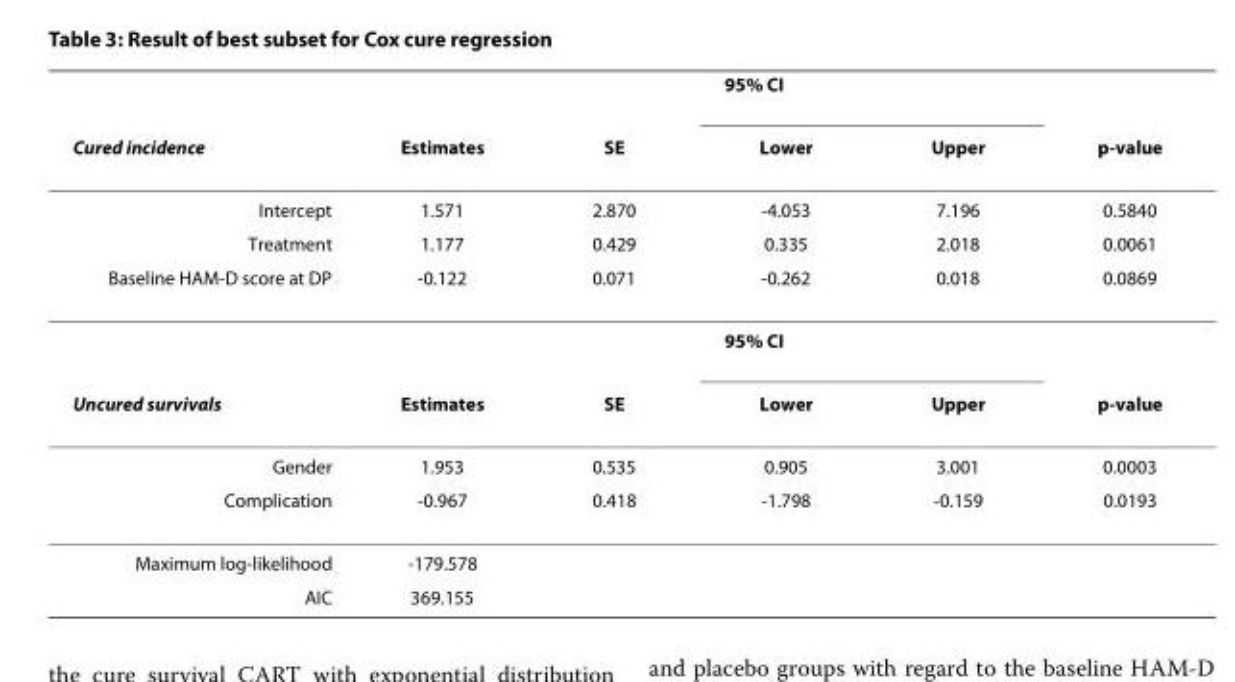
<table><thead><tr><td rowspan="2">Cured incidence</td><td rowspan="2">Estimates</td><td rowspan="2">SE</td><td colspan="2">95% CI</td><td rowspan="2">p-value</td></tr><tr><td>Lower</td><td>Upper</td></tr></thead><tbody><tr><td>Intercept</td><td>1.571</td><td>2.870</td><td>-4.053</td><td>7.196</td><td>0.5840</td></tr><tr><td>Treatment</td><td>1.177</td><td>0.429</td><td>0.335</td><td>2.018</td><td>0.0061</td></tr><tr><td rowspan="2">Baseline HAM-D score at DP</td><td>-0.122</td><td>0.071</td><td>-0.262</td><td>0.018</td><td>0.0869</td></tr><tr><td></td><td></td><td colspan="2">95% CI</td><td></td></tr><tr><td>Uncured survivals</td><td>Estimates</td><td>SE</td><td>Lower</td><td>Upper</td><td>p-value</td></tr><tr><td>Gender</td><td>1.953</td><td>0.535</td><td>0.905</td><td>3.001</td><td>0.0003</td></tr><tr><td>Complication</td><td>-0.967</td><td>0.418</td><td>-1.798</td><td>-0.159</td><td>0.0193</td></tr><tr><td>Maximum log-likelihood</td><td>-179.578</td><td></td><td></td><td></td><td></td></tr><tr><td>AIC</td><td>369.155</td><td></td><td></td><td></td><td></td></tr></tbody></table>